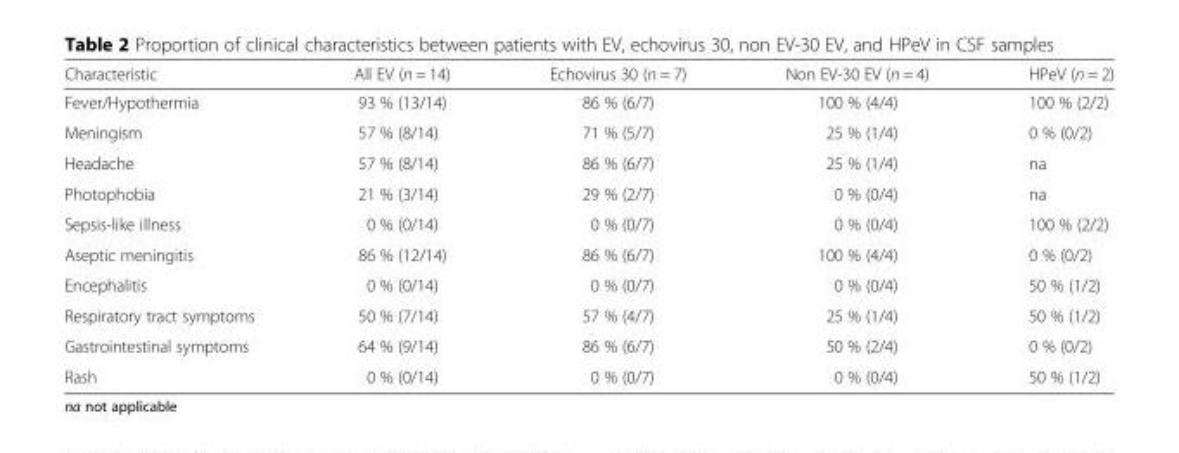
<table><thead><tr><td>Characteristic</td><td>All EV (n = 14)</td><td>Echovirus 30 (n = 7)</td><td>Non EV-30 EV (n = 4)</td><td>HPeV (n = 2)</td></tr></thead><tbody><tr><td>Fever/Hypothermia</td><td>93 % (13/14)</td><td>86 % (6/7)</td><td>100 % (4/4)</td><td>100 % (2/2)</td></tr><tr><td>Meningism</td><td>57 % (8/14)</td><td>71 % (5/7)</td><td>25 % (1/4)</td><td>0 % (0/2)</td></tr><tr><td>Headache</td><td>57 % (8/14)</td><td>86 % (6/7)</td><td>25 % (1/4)</td><td>na</td></tr><tr><td>Photophobia</td><td>21 % (3/14)</td><td>29 % (2/7)</td><td>0 % (0/4)</td><td>na</td></tr><tr><td>Sepsis-like illness</td><td>0 % (0/14)</td><td>0 % (0/7)</td><td>0 % (0/4)</td><td>100 % (2/2)</td></tr><tr><td>Aseptic meningitis</td><td>86 % (12/14)</td><td>86 % (6/7)</td><td>100 % (4/4)</td><td>0 % (0/2)</td></tr><tr><td>Encephalitis</td><td>0 % (0/14)</td><td>0 % (0/7)</td><td>0 % (0/4)</td><td>50 % (1/2)</td></tr><tr><td>Respiratory tract symptoms</td><td>50 % (7/14)</td><td>57 % (4/7)</td><td>25 % (1/4)</td><td>50 % (1/2)</td></tr><tr><td>Gastrointestinal symptoms</td><td>64 % (9/14)</td><td>86 % (6/7)</td><td>50 % (2/4)</td><td>0 % (0/2)</td></tr><tr><td>Rash</td><td>0 % (0/14)</td><td>0 % (0/7)</td><td>0 % (0/4)</td><td>50 % (1/2)</td></tr></tbody></table>